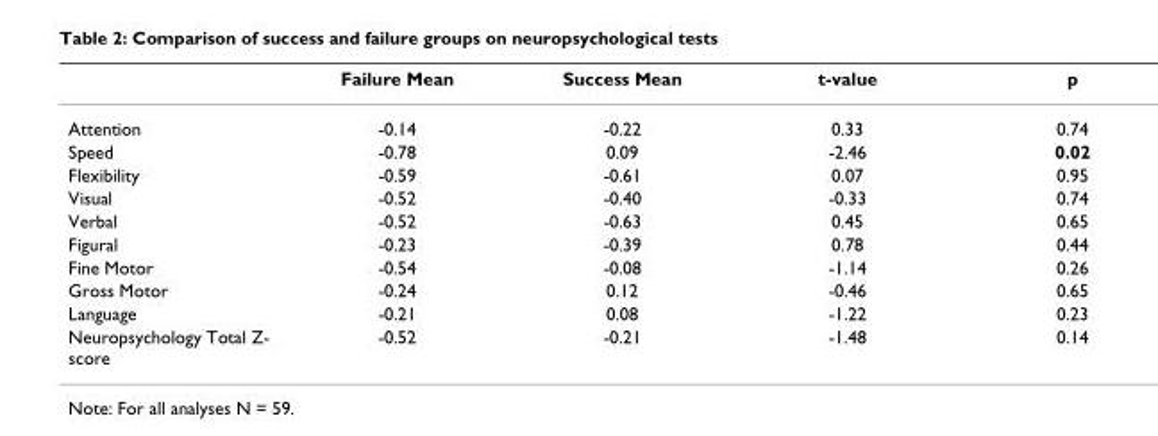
<table><thead><tr><td></td><td>Failure Mean</td><td>Success Mean</td><td>t-value</td><td>p</td></tr></thead><tbody><tr><td>Attention</td><td>-0.14</td><td>-0.22</td><td>0.33</td><td>0.74</td></tr><tr><td>Speed</td><td>-0.78</td><td>0.09</td><td>-2.46</td><td>0.02</td></tr><tr><td>Flexibility</td><td>-0.59</td><td>-0.61</td><td>0.07</td><td>0.95</td></tr><tr><td>Visual</td><td>-0.52</td><td>-0.40</td><td>-0.33</td><td>0.74</td></tr><tr><td>Verbal</td><td>-0.52</td><td>-0.63</td><td>0.45</td><td>0.65</td></tr><tr><td>Figural</td><td>-0.23</td><td>-0.39</td><td>0.78</td><td>0.44</td></tr><tr><td>Fine Motor</td><td>-0.54</td><td>-0.08</td><td>-1.14</td><td>0.26</td></tr><tr><td>Gross Motor</td><td>-0.24</td><td>0.12</td><td>-0.46</td><td>0.65</td></tr><tr><td>Language</td><td>-0.21</td><td>0.08</td><td>-1.22</td><td>0.23</td></tr><tr><td>Neuropsychology Total Z- score</td><td>-0.52</td><td>-0.21</td><td>-1.48</td><td>0.14</td></tr></tbody></table>